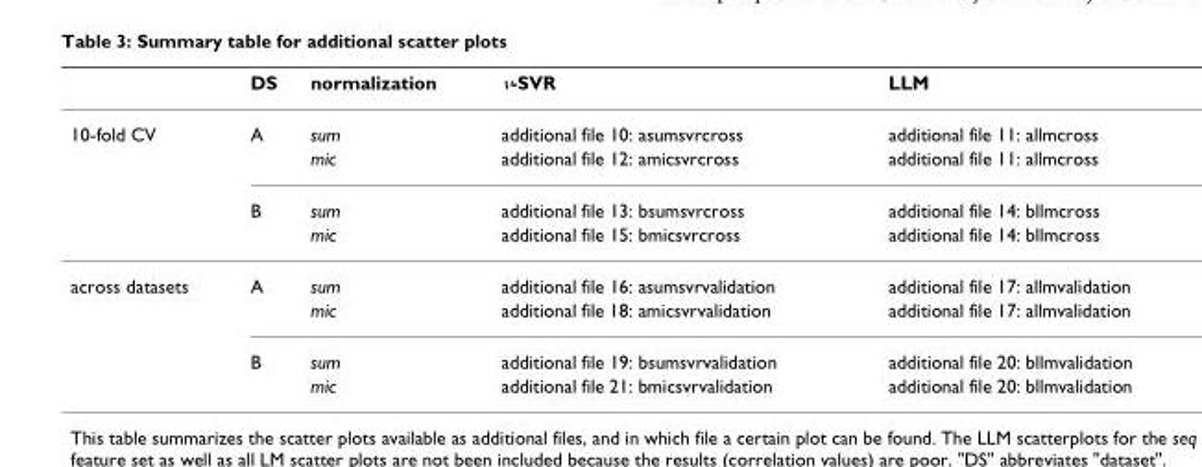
<table><thead><tr><td></td><td>DS</td><td>normalization</td><td>ν-SVR</td><td>LLM</td></tr></thead><tbody><tr><td rowspan="4">10-fold CV</td><td>A</td><td>sum</td><td>additional file 10: asumsvrcross</td><td>additional file 11: allmcross</td></tr><tr><td></td><td>mic</td><td>additional file 12: amicsvrcross</td><td>additional file 11: allmcross</td></tr><tr><td>B</td><td>sum</td><td>additional file 13: bsumsvrcross</td><td>additional file 14: bllmcross</td></tr><tr><td></td><td>mic</td><td>additional file 15: bmicsvrcross</td><td>additional file 14: bllmcross</td></tr><tr><td rowspan="4">across datasets</td><td>A</td><td>sum</td><td>additional file 16: asumsvrvalidation</td><td>additional file 17: allmvalidation</td></tr><tr><td></td><td>mic</td><td>additional file 18: amicsvrvalidation</td><td>additional file 17: allmvalidation</td></tr><tr><td>B</td><td>sum</td><td>additional file 19: bsumsvrvalidation</td><td>additional file 20: bllmvalidation</td></tr><tr><td></td><td>mic</td><td>additional file 21: bmicsvrvalidation</td><td>additional file 20: bllmvalidation</td></tr></tbody></table>